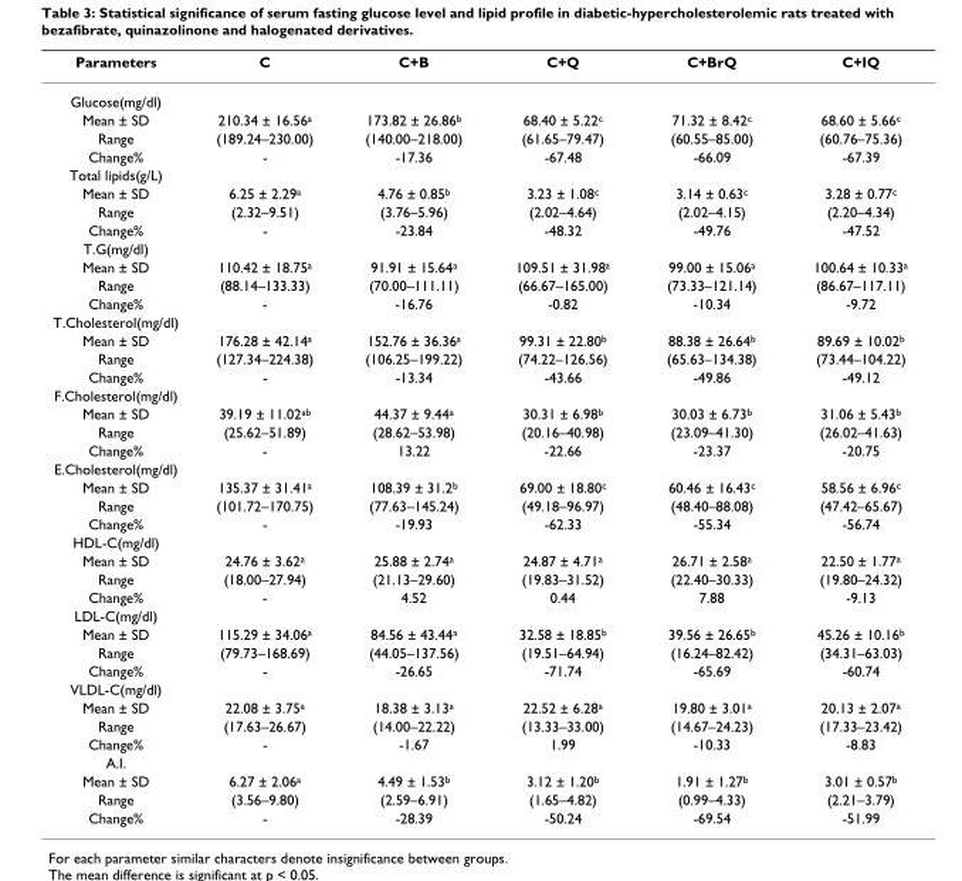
<table><thead><tr><td>Parameters</td><td>C</td><td>C+B</td><td>C+Q</td><td>C+BrQ</td><td>C+IQ</td></tr></thead><tbody><tr><td colspan="6">Glucose(mg/dl)</td></tr><tr><td>Mean ± SD</td><td>210.34 ± 16.56<sup>a</sup></td><td>173.82 ± 26.86<sup>b</sup></td><td>68.40 ± 5.22<sup>c</sup></td><td>71.32 ± 8.42<sup>c</sup></td><td>68.60 ± 5.66<sup>c</sup></td></tr><tr><td>Range</td><td>(189.24–230.00)</td><td>(140.00–218.00)</td><td>(61.65–79.47)</td><td>(60.55–85.00)</td><td>(60.76–75.36)</td></tr><tr><td>Change%</td><td>-</td><td>-17.36</td><td>-67.48</td><td>-66.09</td><td>-67.39</td></tr><tr><td colspan="6">Total lipids(g/L)</td></tr><tr><td>Mean ± SD</td><td>6.25 ± 2.29<sup>a</sup></td><td>4.76 ± 0.85<sup>b</sup></td><td>3.23 ± 1.08<sup>c</sup></td><td>3.14 ± 0.63<sup>c</sup></td><td>3.28 ± 0.77<sup>c</sup></td></tr><tr><td>Range</td><td>(2.32–9.51)</td><td>(3.76–5.96)</td><td>(2.02–4.64)</td><td>(2.02–4.15)</td><td>(2.20–4.34)</td></tr><tr><td>Change%</td><td>-</td><td>-23.84</td><td>-48.32</td><td>-49.76</td><td>-47.52</td></tr><tr><td colspan="6">T.G(mg/dl)</td></tr><tr><td>Mean ± SD</td><td>110.42 ± 18.75<sup>a</sup></td><td>91.91 ± 15.64<sup>a</sup></td><td>109.51 ± 31.98<sup>a</sup></td><td>99.00 ± 15.06<sup>a</sup></td><td>100.64 ± 10.33<sup>a</sup></td></tr><tr><td>Range</td><td>(88.14–133.33)</td><td>(70.00–111.11)</td><td>(66.67–165.00)</td><td>(73.33–121.14)</td><td>(86.67–117.11)</td></tr><tr><td>Change%</td><td>-</td><td>-16.76</td><td>-0.82</td><td>-10.34</td><td>-9.72</td></tr><tr><td colspan="6">T.Cholesterol(mg/dl)</td></tr><tr><td>Mean ± SD</td><td>176.28 ± 42.14<sup>a</sup></td><td>152.76 ± 36.36<sup>a</sup></td><td>99.31 ± 22.80<sup>b</sup></td><td>88.38 ± 26.64<sup>b</sup></td><td>89.69 ± 10.02<sup>b</sup></td></tr><tr><td>Range</td><td>(127.34–224.38)</td><td>(106.25–199.22)</td><td>(74.22–126.56)</td><td>(65.63–134.38)</td><td>(73.44–104.22)</td></tr><tr><td>Change%</td><td>-</td><td>-13.34</td><td>-43.66</td><td>-49.86</td><td>-49.12</td></tr><tr><td colspan="6">F.Cholesterol(mg/dl)</td></tr><tr><td>Mean ± SD</td><td>39.19 ± 11.02<sup>ab</sup></td><td>44.37 ± 9.44<sup>a</sup></td><td>30.31 ± 6.98<sup>b</sup></td><td>30.03 ± 6.73<sup>b</sup></td><td>31.06 ± 5.43<sup>b</sup></td></tr><tr><td>Range</td><td>(25.62–51.89)</td><td>(28.62–53.98)</td><td>(20.16–40.98)</td><td>(23.09–41.30)</td><td>(26.02–41.63)</td></tr><tr><td>Change%</td><td>-</td><td>13.22</td><td>-22.66</td><td>-23.37</td><td>-20.75</td></tr><tr><td colspan="6">E.Cholesterol(mg/dl)</td></tr><tr><td>Mean ± SD</td><td>135.37 ± 31.41<sup>a</sup></td><td>108.39 ± 31.2<sup>b</sup></td><td>69.00 ± 18.80<sup>c</sup></td><td>60.46 ± 16.43<sup>c</sup></td><td>58.56 ± 6.96<sup>c</sup></td></tr><tr><td>Range</td><td>(101.72–170.75)</td><td>(77.63–145.24)</td><td>(49.18–96.97)</td><td>(48.40–88.08)</td><td>(47.42–65.67)</td></tr><tr><td>Change%</td><td>-</td><td>-19.93</td><td>-62.33</td><td>-55.34</td><td>-56.74</td></tr><tr><td colspan="6">HDL-C(mg/dl)</td></tr><tr><td>Mean ± SD</td><td>24.76 ± 3.62<sup>a</sup></td><td>25.88 ± 2.74<sup>a</sup></td><td>24.87 ± 4.71<sup>a</sup></td><td>26.71 ± 2.58<sup>a</sup></td><td>22.50 ± 1.77<sup>a</sup></td></tr><tr><td>Range</td><td>(18.00–27.94)</td><td>(21.13–29.60)</td><td>(19.83–31.52)</td><td>(22.40–30.33)</td><td>(19.80–24.32)</td></tr><tr><td>Change%</td><td>-</td><td>4.52</td><td>0.44</td><td>7.88</td><td>-9.13</td></tr><tr><td colspan="6">LDL-C(mg/dl)</td></tr><tr><td>Mean ± SD</td><td>115.29 ± 34.06<sup>a</sup></td><td>84.56 ± 43.44<sup>a</sup></td><td>32.58 ± 18.85<sup>b</sup></td><td>39.56 ± 26.65<sup>b</sup></td><td>45.26 ± 10.16<sup>b</sup></td></tr><tr><td>Range</td><td>(79.73–168.69)</td><td>(44.05–137.56)</td><td>(19.51–64.94)</td><td>(16.24–82.42)</td><td>(34.31–63.03)</td></tr><tr><td>Change%</td><td>-</td><td>-26.65</td><td>-71.74</td><td>-65.69</td><td>-60.74</td></tr><tr><td colspan="6">VLDL-C(mg/dl)</td></tr><tr><td>Mean ± SD</td><td>22.08 ± 3.75<sup>a</sup></td><td>18.38 ± 3.13<sup>a</sup></td><td>22.52 ± 6.28<sup>a</sup></td><td>19.80 ± 3.01<sup>a</sup></td><td>20.13 ± 2.07<sup>a</sup></td></tr><tr><td>Range</td><td>(17.63–26.67)</td><td>(14.00–22.22)</td><td>(13.33–33.00)</td><td>(14.67–24.23)</td><td>(17.33–23.42)</td></tr><tr><td>Change%</td><td>-</td><td>-1.67</td><td>1.99</td><td>-10.33</td><td>-8.83</td></tr><tr><td colspan="6">A.I.</td></tr><tr><td>Mean ± SD</td><td>6.27 ± 2.06<sup>a</sup></td><td>4.49 ± 1.53<sup>b</sup></td><td>3.12 ± 1.20<sup>b</sup></td><td>1.91 ± 1.27<sup>b</sup></td><td>3.01 ± 0.57<sup>b</sup></td></tr><tr><td>Range</td><td>(3.56–9.80)</td><td>(2.59–6.91)</td><td>(1.65–4.82)</td><td>(0.99–4.33)</td><td>(2.21–3.79)</td></tr><tr><td>Change%</td><td>-</td><td>-28.39</td><td>-50.24</td><td>-69.54</td><td>-51.99</td></tr></tbody></table>